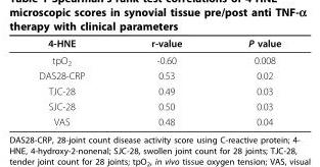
<table><thead><tr><td>4-HNE</td><td>r-value</td><td>P value</td></tr></thead><tbody><tr><td>tpO<sub>2</sub></td><td>-0.60</td><td>0.008</td></tr><tr><td>DAS28-CRP</td><td>0.53</td><td>0.02</td></tr><tr><td>TJC-28</td><td>0.49</td><td>0.03</td></tr><tr><td>SJC-28</td><td>0.50</td><td>0.03</td></tr><tr><td>VAS</td><td>0.48</td><td>0.04</td></tr></tbody></table>